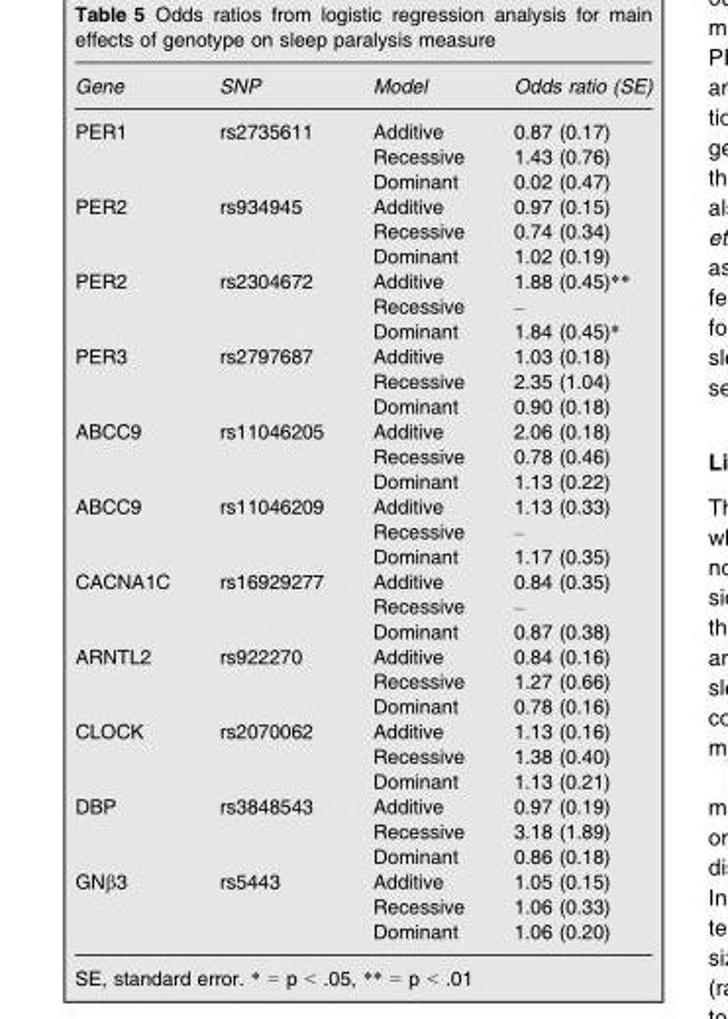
<table><thead><tr><td>Gene</td><td>SNP</td><td>Model</td><td>Odds ratio (SE)</td></tr></thead><tbody><tr><td rowspan="3">PER1</td><td rowspan="3">rs2735611</td><td>Additive</td><td>0.87 (0.17)</td></tr><tr><td>Recessive</td><td>1.43 (0.76)</td></tr><tr><td>Dominant</td><td>0.02 (0.47)</td></tr><tr><td rowspan="3">PER2</td><td rowspan="3">rs934945</td><td>Additive</td><td>0.97 (0.15)</td></tr><tr><td>Recessive</td><td>0.74 (0.34)</td></tr><tr><td>Dominant</td><td>1.02 (0.19)</td></tr><tr><td rowspan="3">PER2</td><td rowspan="3">rs2304672</td><td>Additive</td><td>1.88 (0.45)**</td></tr><tr><td>Recessive</td><td>–</td></tr><tr><td>Dominant</td><td>1.84 (0.45)*</td></tr><tr><td rowspan="3">PER3</td><td rowspan="3">rs2797687</td><td>Additive</td><td>1.03 (0.18)</td></tr><tr><td>Recessive</td><td>2.35 (1.04)</td></tr><tr><td>Dominant</td><td>0.90 (0.18)</td></tr><tr><td rowspan="3">ABCC9</td><td rowspan="3">rs11046205</td><td>Additive</td><td>2.06 (0.18)</td></tr><tr><td>Recessive</td><td>0.78 (0.46)</td></tr><tr><td>Dominant</td><td>1.13 (0.22)</td></tr><tr><td rowspan="3">ABCC9</td><td rowspan="3">rs11046209</td><td>Additive</td><td>1.13 (0.33)</td></tr><tr><td>Recessive</td><td>–</td></tr><tr><td>Dominant</td><td>1.17 (0.35)</td></tr><tr><td rowspan="3">CACNA1C</td><td rowspan="3">rs16929277</td><td>Additive</td><td>0.84 (0.35)</td></tr><tr><td>Recessive</td><td>–</td></tr><tr><td>Dominant</td><td>0.87 (0.38)</td></tr><tr><td rowspan="3">ARNTL2</td><td rowspan="3">rs922270</td><td>Additive</td><td>0.84 (0.16)</td></tr><tr><td>Recessive</td><td>1.27 (0.66)</td></tr><tr><td>Dominant</td><td>0.78 (0.16)</td></tr><tr><td rowspan="3">CLOCK</td><td rowspan="3">rs2070062</td><td>Additive</td><td>1.13 (0.16)</td></tr><tr><td>Recessive</td><td>1.38 (0.40)</td></tr><tr><td>Dominant</td><td>1.13 (0.21)</td></tr><tr><td rowspan="3">DBP</td><td rowspan="3">rs3848543</td><td>Additive</td><td>0.97 (0.19)</td></tr><tr><td>Recessive</td><td>3.18 (1.89)</td></tr><tr><td>Dominant</td><td>0.86 (0.18)</td></tr><tr><td rowspan="3">GNβ3</td><td rowspan="3">rs5443</td><td>Additive</td><td>1.05 (0.15)</td></tr><tr><td>Recessive</td><td>1.06 (0.33)</td></tr><tr><td>Dominant</td><td>1.06 (0.20)</td></tr></tbody></table>